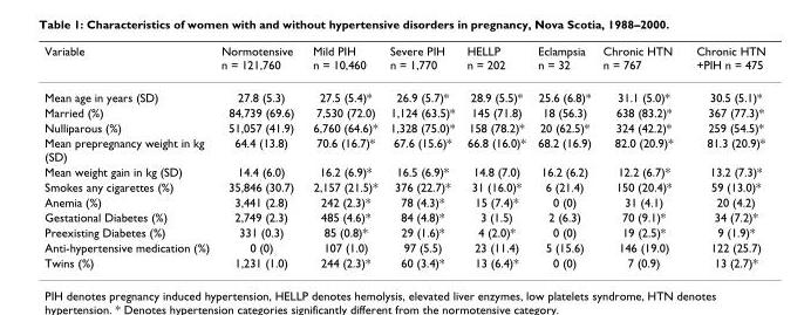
<table><thead><tr><td>Variable</td><td>Normotensive n = 121,760</td><td>Mild PIH n = 10,460</td><td>Severe PIH n = 1,770</td><td>HELLP n = 202</td><td>Eclampsia n = 32</td><td>Chronic HTN n = 767</td><td>Chronic HTN +PIH n = 475</td></tr></thead><tbody><tr><td>Mean age in years (SD)</td><td>27.8 (5.3)</td><td>27.5 (5.4)*</td><td>26.9 (5.7)*</td><td>28.9 (5.5)*</td><td>25.6 (6.8)*</td><td>31.1 (5.0)*</td><td>30.5 (5.1)*</td></tr><tr><td>Married (%)</td><td>84,739 (69.6)</td><td>7,530 (72.0)</td><td>1,124 (63.5)*</td><td>145 (71.8)</td><td>18 (56.3)</td><td>638 (83.2)*</td><td>367 (77.3)*</td></tr><tr><td>Nulliparous (%)</td><td>51,057 (41.9)</td><td>6,760 (64.6)*</td><td>1,328 (75.0)*</td><td>158 (78.2)*</td><td>20 (62.5)*</td><td>324 (42.2)*</td><td>259 (54.5)*</td></tr><tr><td>Mean prepregnancy weight in kg (SD)</td><td>64.4 (13.8)</td><td>70.6 (16.7)*</td><td>67.6 (15.6)*</td><td>66.8 (16.0)*</td><td>68.2 (16.9)</td><td>82.0 (20.9)*</td><td>81.3 (20.9)*</td></tr><tr><td>Mean weight gain in kg (SD)</td><td>14.4 (6.0)</td><td>16.2 (6.9)*</td><td>16.5 (6.9)*</td><td>14.8 (7.0)</td><td>16.2 (6.2)</td><td>12.2 (6.7)*</td><td>13.2 (7.3)*</td></tr><tr><td>Smokes any cigarettes (%)</td><td>35,846 (30.7)</td><td>2,157 (21.5)*</td><td>376 (22.7)*</td><td>31 (16.0)*</td><td>6 (21.4)</td><td>150 (20.4)*</td><td>59 (13.0)*</td></tr><tr><td>Anemia (%)</td><td>3,441 (2.8)</td><td>242 (2.3)*</td><td>78 (4.3)*</td><td>15 (7.4)*</td><td>0 (0)</td><td>31 (4.1)</td><td>20 (4.2)</td></tr><tr><td>Gestational Diabetes (%)</td><td>2,749 (2.3)</td><td>485 (4.6)*</td><td>84 (4.8)*</td><td>3 (1.5)</td><td>2 (6.3)</td><td>70 (9.1)*</td><td>34 (7.2)*</td></tr><tr><td>Preexisting Diabetes (%)</td><td>331 (0.3)</td><td>85 (0.8)*</td><td>29 (1.6)*</td><td>4 (2.0)*</td><td>0 (0)</td><td>19 (2.5)*</td><td>9 (1.9)*</td></tr><tr><td>Anti-hypertensive medication (%)</td><td>0 (0)</td><td>107 (1.0)</td><td>97 (5.5)</td><td>23 (11.4)</td><td>5 (15.6)</td><td>146 (19.0)</td><td>122 (25.7)</td></tr><tr><td>Twins (%)</td><td>1,231 (1.0)</td><td>244 (2.3)*</td><td>60 (3.4)*</td><td>13 (6.4)*</td><td>0 (0)</td><td>7 (0.9)</td><td>13 (2.7)*</td></tr></tbody></table>